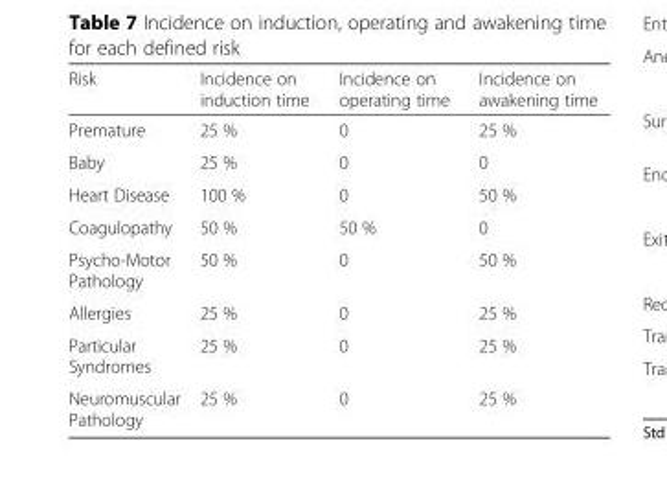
<table><thead><tr><td>Risk</td><td>Incidence on induction time</td><td>Incidence on operating time</td><td>Incidence on awakening time</td></tr></thead><tbody><tr><td>Premature</td><td>25 %</td><td>0</td><td>25 %</td></tr><tr><td>Baby</td><td>25 %</td><td>0</td><td>0</td></tr><tr><td>Heart Disease</td><td>100 %</td><td>0</td><td>50 %</td></tr><tr><td>Coagulopathy</td><td>50 %</td><td>50 %</td><td>0</td></tr><tr><td>Psycho-Motor Pathology</td><td>50 %</td><td>0</td><td>50 %</td></tr><tr><td>Allergies</td><td>25 %</td><td>0</td><td>25 %</td></tr><tr><td>Particular Syndromes</td><td>25 %</td><td>0</td><td>25 %</td></tr><tr><td>Neuromuscular Pathology</td><td>25 %</td><td>0</td><td>25 %</td></tr></tbody></table>